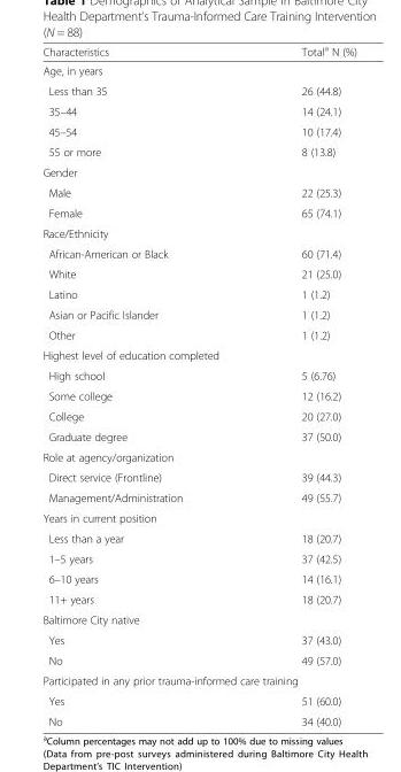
<table><thead><tr><td>Characteristics</td><td>Total<sup>a</sup> N (%)</td></tr></thead><tbody><tr><td colspan="2">Age, in years</td></tr><tr><td>Less than 35</td><td>26 (44.8)</td></tr><tr><td>35–44</td><td>14 (24.1)</td></tr><tr><td>45–54</td><td>10 (17.4)</td></tr><tr><td>55 or more</td><td>8 (13.8)</td></tr><tr><td colspan="2">Gender</td></tr><tr><td>Male</td><td>22 (25.3)</td></tr><tr><td>Female</td><td>65 (74.1)</td></tr><tr><td colspan="2">Race/Ethnicity</td></tr><tr><td>African-American or Black</td><td>60 (71.4)</td></tr><tr><td>White</td><td>21 (25.0)</td></tr><tr><td>Latino</td><td>1 (1.2)</td></tr><tr><td>Asian or Pacific Islander</td><td>1 (1.2)</td></tr><tr><td>Other</td><td>1 (1.2)</td></tr><tr><td colspan="2">Highest level of education completed</td></tr><tr><td>High school</td><td>5 (6.76)</td></tr><tr><td>Some college</td><td>12 (16.2)</td></tr><tr><td>College</td><td>20 (27.0)</td></tr><tr><td>Graduate degree</td><td>37 (50.0)</td></tr><tr><td colspan="2">Role at agency/organization</td></tr><tr><td>Direct service (Frontline)</td><td>39 (44.3)</td></tr><tr><td>Management/Administration</td><td>49 (55.7)</td></tr><tr><td colspan="2">Years in current position</td></tr><tr><td>Less than a year</td><td>18 (20.7)</td></tr><tr><td>1–5 years</td><td>37 (42.5)</td></tr><tr><td>6–10 years</td><td>14 (16.1)</td></tr><tr><td>11+ years</td><td>18 (20.7)</td></tr><tr><td colspan="2">Baltimore City native</td></tr><tr><td>Yes</td><td>37 (43.0)</td></tr><tr><td>No</td><td>49 (57.0)</td></tr><tr><td colspan="2">Participated in any prior trauma-informed care training</td></tr><tr><td>Yes</td><td>51 (60.0)</td></tr><tr><td>No</td><td>34 (40.0)</td></tr></tbody></table>